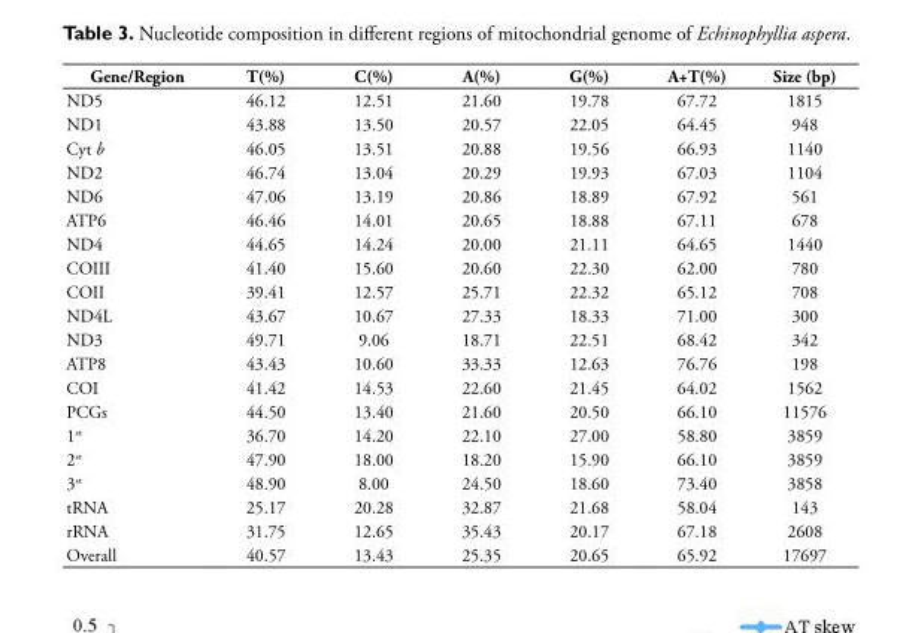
<table><thead><tr><td>Gene/Region</td><td>T(%)</td><td>C(%)</td><td>A(%)</td><td>G(%)</td><td>A+T(%)</td><td>Size (bp)</td></tr></thead><tbody><tr><td>ND5</td><td>46.12</td><td>12.51</td><td>21.60</td><td>19.78</td><td>67.72</td><td>1815</td></tr><tr><td>ND1</td><td>43.88</td><td>13.50</td><td>20.57</td><td>22.05</td><td>64.45</td><td>948</td></tr><tr><td>Cyt b</td><td>46.05</td><td>13.51</td><td>20.88</td><td>19.56</td><td>66.93</td><td>1140</td></tr><tr><td>ND2</td><td>46.74</td><td>13.04</td><td>20.29</td><td>19.93</td><td>67.03</td><td>1104</td></tr><tr><td>ND6</td><td>47.06</td><td>13.19</td><td>20.86</td><td>18.89</td><td>67.92</td><td>561</td></tr><tr><td>ATP6</td><td>46.46</td><td>14.01</td><td>20.65</td><td>18.88</td><td>67.11</td><td>678</td></tr><tr><td>ND4</td><td>44.65</td><td>14.24</td><td>20.00</td><td>21.11</td><td>64.65</td><td>1440</td></tr><tr><td>COIII</td><td>41.40</td><td>15.60</td><td>20.60</td><td>22.30</td><td>62.00</td><td>780</td></tr><tr><td>COII</td><td>39.41</td><td>12.57</td><td>25.71</td><td>22.32</td><td>65.12</td><td>708</td></tr><tr><td>ND4L</td><td>43.67</td><td>10.67</td><td>27.33</td><td>18.33</td><td>71.00</td><td>300</td></tr><tr><td>ND3</td><td>49.71</td><td>9.06</td><td>18.71</td><td>22.51</td><td>68.42</td><td>342</td></tr><tr><td>ATP8</td><td>43.43</td><td>10.60</td><td>33.33</td><td>12.63</td><td>76.76</td><td>198</td></tr><tr><td>COI</td><td>41.42</td><td>14.53</td><td>22.60</td><td>21.45</td><td>64.02</td><td>1562</td></tr><tr><td>PCGs</td><td>44.50</td><td>13.40</td><td>21.60</td><td>20.50</td><td>66.10</td><td>11576</td></tr><tr><td>1<sup>st</sup></td><td>36.70</td><td>14.20</td><td>22.10</td><td>27.00</td><td>58.80</td><td>3859</td></tr><tr><td>2<sup>st</sup></td><td>47.90</td><td>18.00</td><td>18.20</td><td>15.90</td><td>66.10</td><td>3859</td></tr><tr><td>3<sup>st</sup></td><td>48.90</td><td>8.00</td><td>24.50</td><td>18.60</td><td>73.40</td><td>3858</td></tr><tr><td>tRNA</td><td>25.17</td><td>20.28</td><td>32.87</td><td>21.68</td><td>58.04</td><td>143</td></tr><tr><td>rRNA</td><td>31.75</td><td>12.65</td><td>35.43</td><td>20.17</td><td>67.18</td><td>2608</td></tr><tr><td>Overall</td><td>40.57</td><td>13.43</td><td>25.35</td><td>20.65</td><td>65.92</td><td>17697</td></tr></tbody></table>